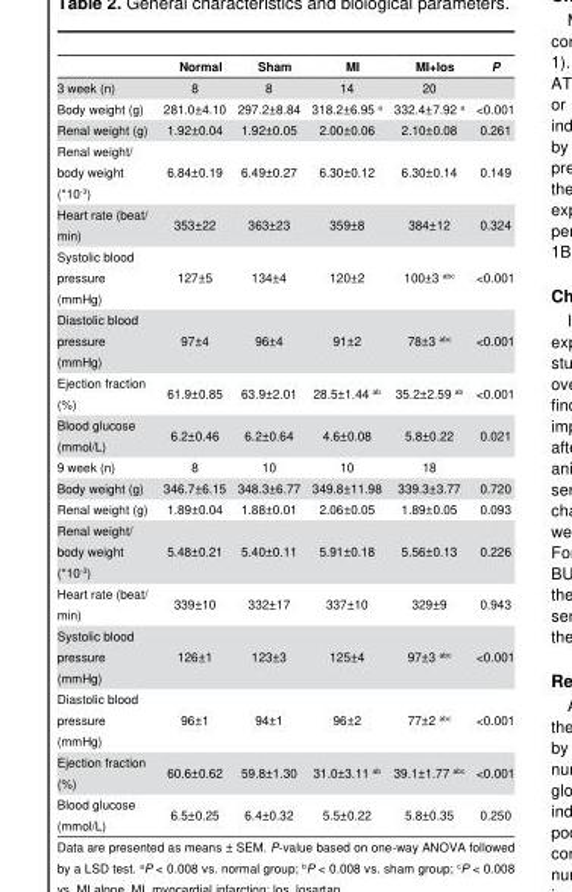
<table><thead><tr><td></td><td>Normal</td><td>Sham</td><td>MI</td><td>MI+los</td><td>P</td></tr></thead><tbody><tr><td>3 week (n)</td><td>8</td><td>8</td><td>14</td><td>20</td><td></td></tr><tr><td>Body weight (g)</td><td>281.0±4.10</td><td>297.2±8.84</td><td>318.2±6.95 <sup>a</sup></td><td>332.4±7.92 <sup>a</sup></td><td>&lt;0.001</td></tr><tr><td>Renal weight (g)</td><td>1.92±0.04</td><td>1.92±0.05</td><td>2.00±0.06</td><td>2.10±0.08</td><td>0.261</td></tr><tr><td>Renal weight/ body weight (*10<sup>-3</sup>)</td><td>6.84±0.19</td><td>6.49±0.27</td><td>6.30±0.12</td><td>6.30±0.14</td><td>0.149</td></tr><tr><td>Heart rate (beat/ min)</td><td>353±22</td><td>363±23</td><td>359±8</td><td>384±12</td><td>0.324</td></tr><tr><td>Systolic blood pressure (mmHg)</td><td>127±5</td><td>134±4</td><td>120±2</td><td>100±3 <sup>abc</sup></td><td>&lt;0.001</td></tr><tr><td>Diastolic blood pressure (mmHg)</td><td>97±4</td><td>96±4</td><td>91±2</td><td>78±3 <sup>abc</sup></td><td>&lt;0.001</td></tr><tr><td>Ejection fraction (%)</td><td>61.9±0.85</td><td>63.9±2.01</td><td>28.5±1.44 <sup>ab</sup></td><td>35.2±2.59 <sup>ab</sup></td><td>&lt;0.001</td></tr><tr><td>Blood glucose (mmol/L)</td><td>6.2±0.46</td><td>6.2±0.64</td><td>4.6±0.08</td><td>5.8±0.22</td><td>0.021</td></tr><tr><td>9 week (n)</td><td>8</td><td>10</td><td>10</td><td>18</td><td></td></tr><tr><td>Body weight (g)</td><td>346.7±6.15</td><td>348.3±6.77</td><td>349.8±11.98</td><td>339.3±3.77</td><td>0.720</td></tr><tr><td>Renal weight (g)</td><td>1.89±0.04</td><td>1.88±0.01</td><td>2.06±0.05</td><td>1.89±0.05</td><td>0.093</td></tr><tr><td>Renal weight/ body weight (*10<sup>-3</sup>)</td><td>5.48±0.21</td><td>5.40±0.11</td><td>5.91±0.18</td><td>5.56±0.13</td><td>0.226</td></tr><tr><td>Heart rate (beat/ min)</td><td>339±10</td><td>332±17</td><td>337±10</td><td>329±9</td><td>0.943</td></tr><tr><td>Systolic blood pressure (mmHg)</td><td>126±1</td><td>123±3</td><td>125±4</td><td>97±3 <sup>abc</sup></td><td>&lt;0.001</td></tr><tr><td>Diastolic blood pressure (mmHg)</td><td>96±1</td><td>94±1</td><td>96±2</td><td>77±2 <sup>abc</sup></td><td>&lt;0.001</td></tr><tr><td>Ejection fraction (%)</td><td>60.6±0.62</td><td>59.8±1.30</td><td>31.0±3.11 <sup>ab</sup></td><td>39.1±1.77 <sup>abc</sup></td><td>&lt;0.001</td></tr><tr><td>Blood glucose (mmol/L)</td><td>6.5±0.25</td><td>6.4±0.32</td><td>5.5±0.22</td><td>5.8±0.35</td><td>0.250</td></tr></tbody></table>